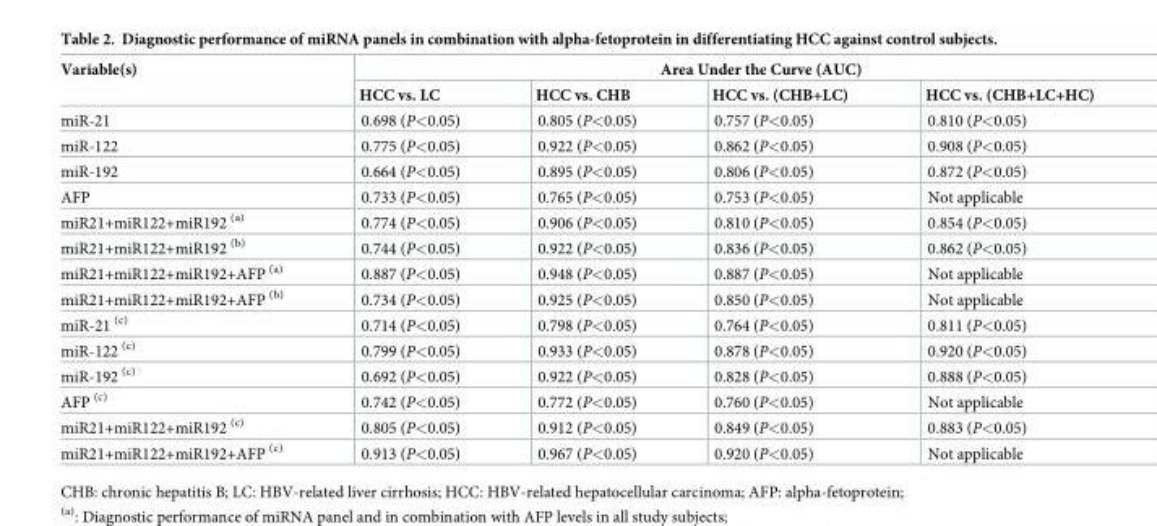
<table><thead><tr><td rowspan="2">Variable(s)</td><td colspan="4">Area Under the Curve (AUC)</td></tr><tr><td>HCC vs. LC</td><td>HCC vs. CHB</td><td>HCC vs. (CHB+LC)</td><td>HCC vs. (CHB+LC+HC)</td></tr></thead><tbody><tr><td>miR-21</td><td>0.698 (P&lt;0.05)</td><td>0.805 (P&lt;0.05)</td><td>0.757 (P&lt;0.05)</td><td>0.810 (P&lt;0.05)</td></tr><tr><td>miR-122</td><td>0.775 (P&lt;0.05)</td><td>0.922 (P&lt;0.05)</td><td>0.862 (P&lt;0.05)</td><td>0.908 (P&lt;0.05)</td></tr><tr><td>miR-192</td><td>0.664 (P&lt;0.05)</td><td>0.895 (P&lt;0.05)</td><td>0.806 (P&lt;0.05)</td><td>0.872 (P&lt;0.05)</td></tr><tr><td>AFP</td><td>0.733 (P&lt;0.05)</td><td>0.765 (P&lt;0.05)</td><td>0.753 (P&lt;0.05)</td><td>Not applicable</td></tr><tr><td>miR21+miR122+miR192 <sup>(a)</sup></td><td>0.774 (P&lt;0.05)</td><td>0.906 (P&lt;0.05)</td><td>0.810 (P&lt;0.05)</td><td>0.854 (P&lt;0.05)</td></tr><tr><td>miR21+miR122+miR192 <sup>(b)</sup></td><td>0.744 (P&lt;0.05)</td><td>0.922 (P&lt;0.05)</td><td>0.836 (P&lt;0.05)</td><td>0.862 (P&lt;0.05)</td></tr><tr><td>miR21+miR122+miR192+AFP <sup>(a)</sup></td><td>0.887 (P&lt;0.05)</td><td>0.948 (P&lt;0.05)</td><td>0.887 (P&lt;0.05)</td><td>Not applicable</td></tr><tr><td>miR21+miR122+miR192+AFP <sup>(b)</sup></td><td>0.734 (P&lt;0.05)</td><td>0.925 (P&lt;0.05)</td><td>0.850 (P&lt;0.05)</td><td>Not applicable</td></tr><tr><td>miR-21 <sup>(c)</sup></td><td>0.714 (P&lt;0.05)</td><td>0.798 (P&lt;0.05)</td><td>0.764 (P&lt;0.05)</td><td>0.811 (P&lt;0.05)</td></tr><tr><td>miR-122 <sup>(c)</sup></td><td>0.799 (P&lt;0.05)</td><td>0.933 (P&lt;0.05)</td><td>0.878 (P&lt;0.05)</td><td>0.920 (P&lt;0.05)</td></tr><tr><td>miR-192 <sup>(c)</sup></td><td>0.692 (P&lt;0.05)</td><td>0.922 (P&lt;0.05)</td><td>0.828 (P&lt;0.05)</td><td>0.888 (P&lt;0.05)</td></tr><tr><td>AFP <sup>(c)</sup></td><td>0.742 (P&lt;0.05)</td><td>0.772 (P&lt;0.05)</td><td>0.760 (P&lt;0.05)</td><td>Not applicable</td></tr><tr><td>miR21+miR122+miR192 <sup>(c)</sup></td><td>0.805 (P&lt;0.05)</td><td>0.912 (P&lt;0.05)</td><td>0.849 (P&lt;0.05)</td><td>0.883 (P&lt;0.05)</td></tr><tr><td>miR21+miR122+miR192+AFP <sup>(c)</sup></td><td>0.913 (P&lt;0.05)</td><td>0.967 (P&lt;0.05)</td><td>0.920 (P&lt;0.05)</td><td>Not applicable</td></tr></tbody></table>